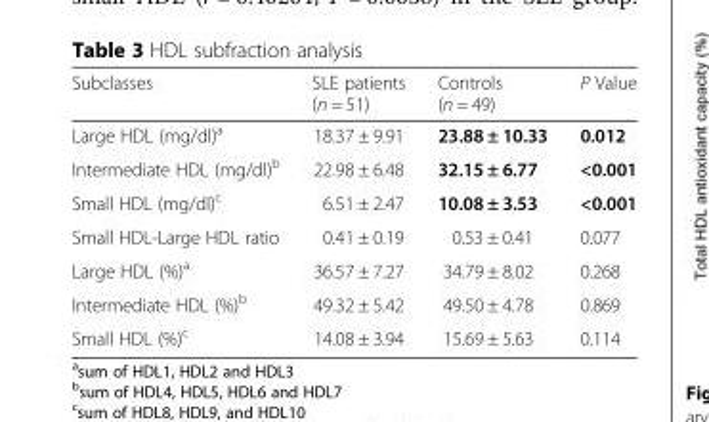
<table><thead><tr><td>Subclasses</td><td>SLE patients (n = 51)</td><td>Controls (n = 49)</td><td>P Value</td></tr></thead><tbody><tr><td>Large HDL (mg/dl)<sup>a</sup></td><td>18.37 ± 9.91</td><td>23.88 ± 10.33</td><td>0.012</td></tr><tr><td>Intermediate HDL (mg/dl)<sup>b</sup></td><td>22.98 ± 6.48</td><td>32.15 ± 6.77</td><td>&lt;0.001</td></tr><tr><td>Small HDL (mg/dl)<sup>c</sup></td><td>6.51 ± 2.47</td><td>10.08 ± 3.53</td><td>&lt;0.001</td></tr><tr><td>Small HDL-Large HDL ratio</td><td>0.41 ± 0.19</td><td>0.53 ± 0.41</td><td>0.077</td></tr><tr><td>Large HDL (%)<sup>a</sup></td><td>36.57 ± 7.27</td><td>34.79 ± 8.02</td><td>0.268</td></tr><tr><td>Intermediate HDL (%)<sup>b</sup></td><td>49.32 ± 5.42</td><td>49.50 ± 4.78</td><td>0.869</td></tr><tr><td>Small HDL (%)<sup>c</sup></td><td>14.08 ± 3.94</td><td>15.69 ± 5.63</td><td>0.114</td></tr></tbody></table>